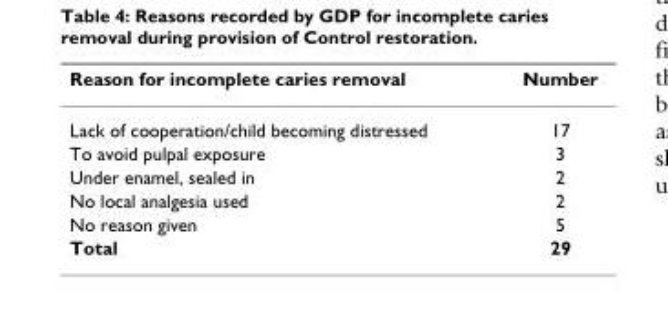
<table><thead><tr><td>Reason for incomplete caries removal</td><td>Number</td></tr></thead><tbody><tr><td>Lack of cooperation/child becoming distressed</td><td>17</td></tr><tr><td>To avoid pulpal exposure</td><td>3</td></tr><tr><td>Under enamel, sealed in</td><td>2</td></tr><tr><td>No local analgesia used</td><td>2</td></tr><tr><td>No reason given</td><td>5</td></tr><tr><td>Total</td><td>29</td></tr></tbody></table>